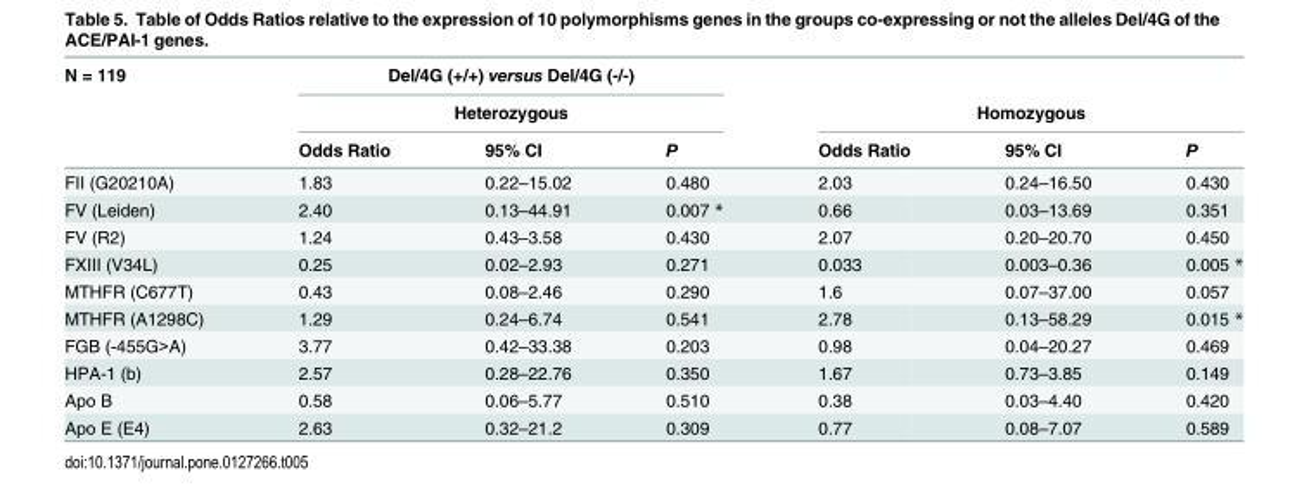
<table><thead><tr><td rowspan="3">N = 119</td><td rowspan="2" colspan="3">Del/4G (+/+) versus Del/4G (-/-) Heterozygous</td><td></td><td></td><td></td></tr><tr><td colspan="3">Homozygous</td></tr><tr><td>Odds Ratio</td><td>95% CI</td><td>P</td><td>Odds Ratio</td><td>95% CI</td><td>P</td></tr></thead><tbody><tr><td>FII (G20210A)</td><td>1.83</td><td>0.22–15.02</td><td>0.480</td><td>2.03</td><td>0.24–16.50</td><td>0.430</td></tr><tr><td>FV (Leiden)</td><td>2.40</td><td>0.13–44.91</td><td>0.007 *</td><td>0.66</td><td>0.03–13.69</td><td>0.351</td></tr><tr><td>FV (R2)</td><td>1.24</td><td>0.43–3.58</td><td>0.430</td><td>2.07</td><td>0.20–20.70</td><td>0.450</td></tr><tr><td>FXIII (V34L)</td><td>0.25</td><td>0.02–2.93</td><td>0.271</td><td>0.033</td><td>0.003–0.36</td><td>0.005 *</td></tr><tr><td>MTHFR (C677T)</td><td>0.43</td><td>0.08–2.46</td><td>0.290</td><td>1.6</td><td>0.07–37.00</td><td>0.057</td></tr><tr><td>MTHFR (A1298C)</td><td>1.29</td><td>0.24–6.74</td><td>0.541</td><td>2.78</td><td>0.13–58.29</td><td>0.015 *</td></tr><tr><td>FGB (-455G&gt;A)</td><td>3.77</td><td>0.42–33.38</td><td>0.203</td><td>0.98</td><td>0.04–20.27</td><td>0.469</td></tr><tr><td>HPA-1 (b)</td><td>2.57</td><td>0.28–22.76</td><td>0.350</td><td>1.67</td><td>0.73–3.85</td><td>0.149</td></tr><tr><td>Apo B</td><td>0.58</td><td>0.06–5.77</td><td>0.510</td><td>0.38</td><td>0.03–4.40</td><td>0.420</td></tr><tr><td>Apo E (E4)</td><td>2.63</td><td>0.32–21.2</td><td>0.309</td><td>0.77</td><td>0.08–7.07</td><td>0.589</td></tr></tbody></table>